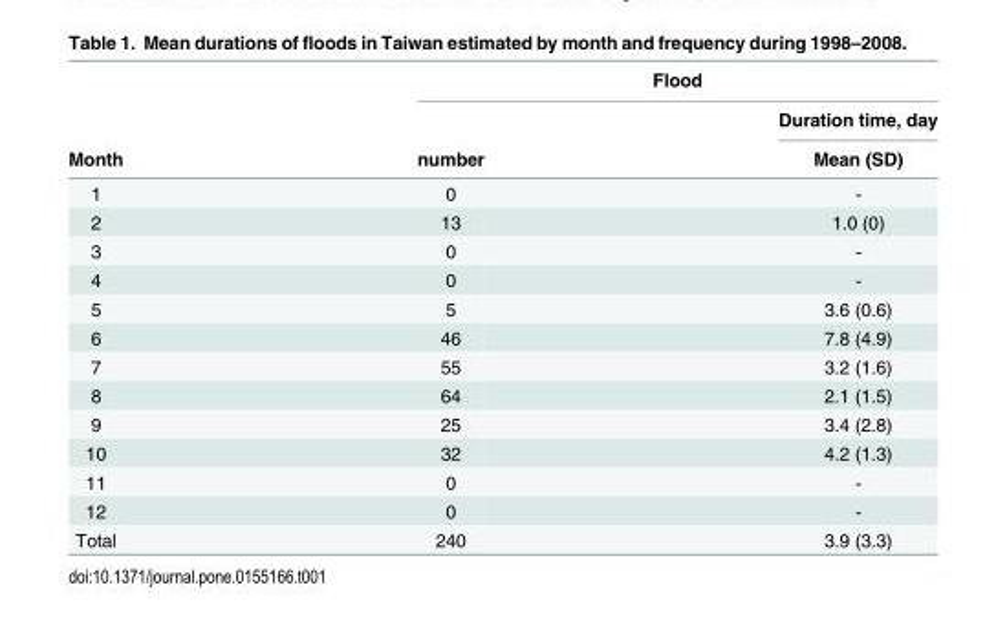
<table><thead><tr><td rowspan="3">Month</td><td colspan="2">Flood</td></tr><tr><td rowspan="2">number</td><td rowspan="2">Duration time, day Mean (SD)</td></tr><tr></tr></thead><tbody><tr><td>1</td><td>0</td><td>-</td></tr><tr><td>2</td><td>13</td><td>1.0 (0)</td></tr><tr><td>3</td><td>0</td><td>-</td></tr><tr><td>4</td><td>0</td><td>-</td></tr><tr><td>5</td><td>5</td><td>3.6 (0.6)</td></tr><tr><td>6</td><td>46</td><td>7.8 (4.9)</td></tr><tr><td>7</td><td>55</td><td>3.2 (1.6)</td></tr><tr><td>8</td><td>64</td><td>2.1 (1.5)</td></tr><tr><td>9</td><td>25</td><td>3.4 (2.8)</td></tr><tr><td>10</td><td>32</td><td>4.2 (1.3)</td></tr><tr><td>11</td><td>0</td><td>-</td></tr><tr><td>12</td><td>0</td><td>-</td></tr><tr><td>Total</td><td>240</td><td>3.9 (3.3)</td></tr></tbody></table>